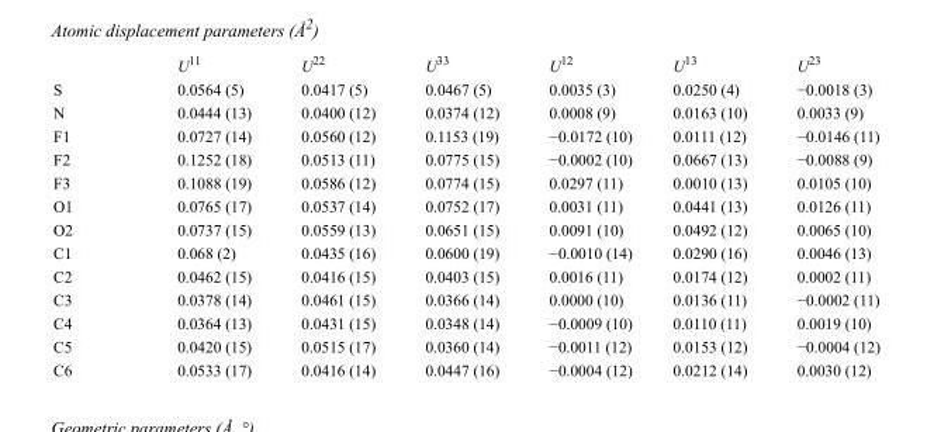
<table><thead><tr><td></td><td>U<sup>11</sup></td><td>U<sup>22</sup></td><td>U<sup>33</sup></td><td>U<sup>12</sup></td><td>U<sup>13</sup></td><td>U<sup>23</sup></td></tr></thead><tbody><tr><td>S</td><td>0.0564 (5)</td><td>0.0417 (5)</td><td>0.0467 (5)</td><td>0.0035 (3)</td><td>0.0250 (4)</td><td>−0.0018 (3)</td></tr><tr><td>N</td><td>0.0444 (13)</td><td>0.0400 (12)</td><td>0.0374 (12)</td><td>0.0008 (9)</td><td>0.0163 (10)</td><td>0.0033 (9)</td></tr><tr><td>F1</td><td>0.0727 (14)</td><td>0.0560 (12)</td><td>0.1153 (19)</td><td>−0.0172 (10)</td><td>0.0111 (12)</td><td>−0.0146 (11)</td></tr><tr><td>F2</td><td>0.1252 (18)</td><td>0.0513 (11)</td><td>0.0775 (15)</td><td>−0.0002 (10)</td><td>0.0667 (13)</td><td>−0.0088 (9)</td></tr><tr><td>F3</td><td>0.1088 (19)</td><td>0.0586 (12)</td><td>0.0774 (15)</td><td>0.0297 (11)</td><td>0.0010 (13)</td><td>0.0105 (10)</td></tr><tr><td>O1</td><td>0.0765 (17)</td><td>0.0537 (14)</td><td>0.0752 (17)</td><td>0.0031 (11)</td><td>0.0441 (13)</td><td>0.0126 (11)</td></tr><tr><td>O2</td><td>0.0737 (15)</td><td>0.0559 (13)</td><td>0.0651 (15)</td><td>0.0091 (10)</td><td>0.0492 (12)</td><td>0.0065 (10)</td></tr><tr><td>C1</td><td>0.068 (2)</td><td>0.0435 (16)</td><td>0.0600 (19)</td><td>−0.0010 (14)</td><td>0.0290 (16)</td><td>0.0046 (13)</td></tr><tr><td>C2</td><td>0.0462 (15)</td><td>0.0416 (15)</td><td>0.0403 (15)</td><td>0.0016 (11)</td><td>0.0174 (12)</td><td>0.0002 (11)</td></tr><tr><td>C3</td><td>0.0378 (14)</td><td>0.0461 (15)</td><td>0.0366 (14)</td><td>0.0000 (10)</td><td>0.0136 (11)</td><td>−0.0002 (11)</td></tr><tr><td>C4</td><td>0.0364 (13)</td><td>0.0431 (15)</td><td>0.0348 (14)</td><td>−0.0009 (10)</td><td>0.0110 (11)</td><td>0.0019 (10)</td></tr><tr><td>C5</td><td>0.0420 (15)</td><td>0.0515 (17)</td><td>0.0360 (14)</td><td>−0.0011 (12)</td><td>0.0153 (12)</td><td>−0.0004 (12)</td></tr><tr><td>C6</td><td>0.0533 (17)</td><td>0.0416 (14)</td><td>0.0447 (16)</td><td>−0.0004 (12)</td><td>0.0212 (14)</td><td>0.0030 (12)</td></tr></tbody></table>